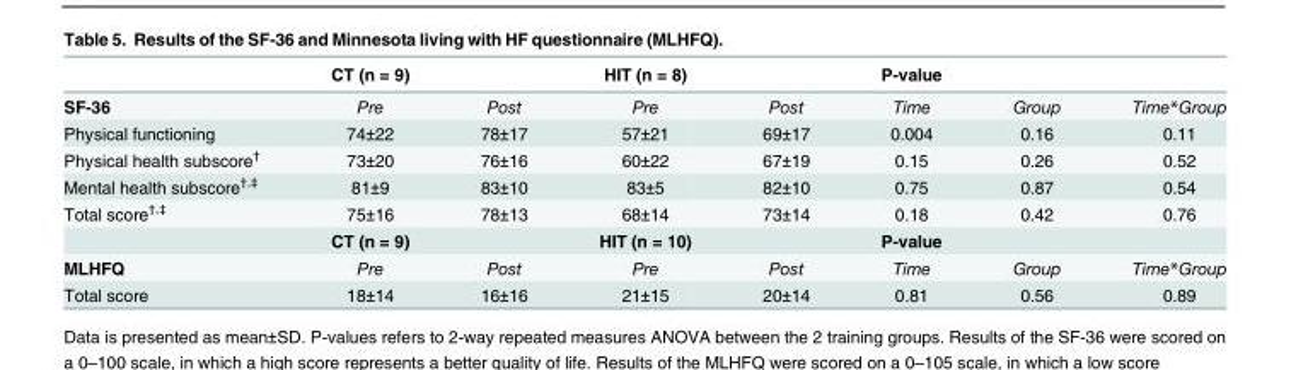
<table><thead><tr><td></td><td>CT (n = 9)</td><td></td><td>HIT (n = 8)</td><td></td><td>P-value</td><td></td><td></td></tr></thead><tbody><tr><td>SF-36</td><td>Pre</td><td>Post</td><td>Pre</td><td>Post</td><td>Time</td><td>Group</td><td>Time*Group</td></tr><tr><td>Physical functioning</td><td>74±22</td><td>78±17</td><td>57±21</td><td>69±17</td><td>0.004</td><td>0.16</td><td>0.11</td></tr><tr><td>Physical health subscore<sup>†</sup></td><td>73±20</td><td>76±16</td><td>60±22</td><td>67±19</td><td>0.15</td><td>0.26</td><td>0.52</td></tr><tr><td>Mental health subscore<sup>†,‡</sup></td><td>81±9</td><td>83±10</td><td>83±5</td><td>82±10</td><td>0.75</td><td>0.87</td><td>0.54</td></tr><tr><td rowspan="2">Total score<sup>†,‡</sup></td><td>75±16</td><td>78±13</td><td>68±14</td><td>73±14</td><td>0.18</td><td>0.42</td><td>0.76</td></tr><tr><td>CT (n = 9)</td><td></td><td>HIT (n = 10)</td><td></td><td>P-value</td><td></td><td></td></tr><tr><td>MLHFQ</td><td>Pre</td><td>Post</td><td>Pre</td><td>Post</td><td>Time</td><td>Group</td><td>Time*Group</td></tr><tr><td>Total score</td><td>18±14</td><td>16±16</td><td>21±15</td><td>20±14</td><td>0.81</td><td>0.56</td><td>0.89</td></tr></tbody></table>